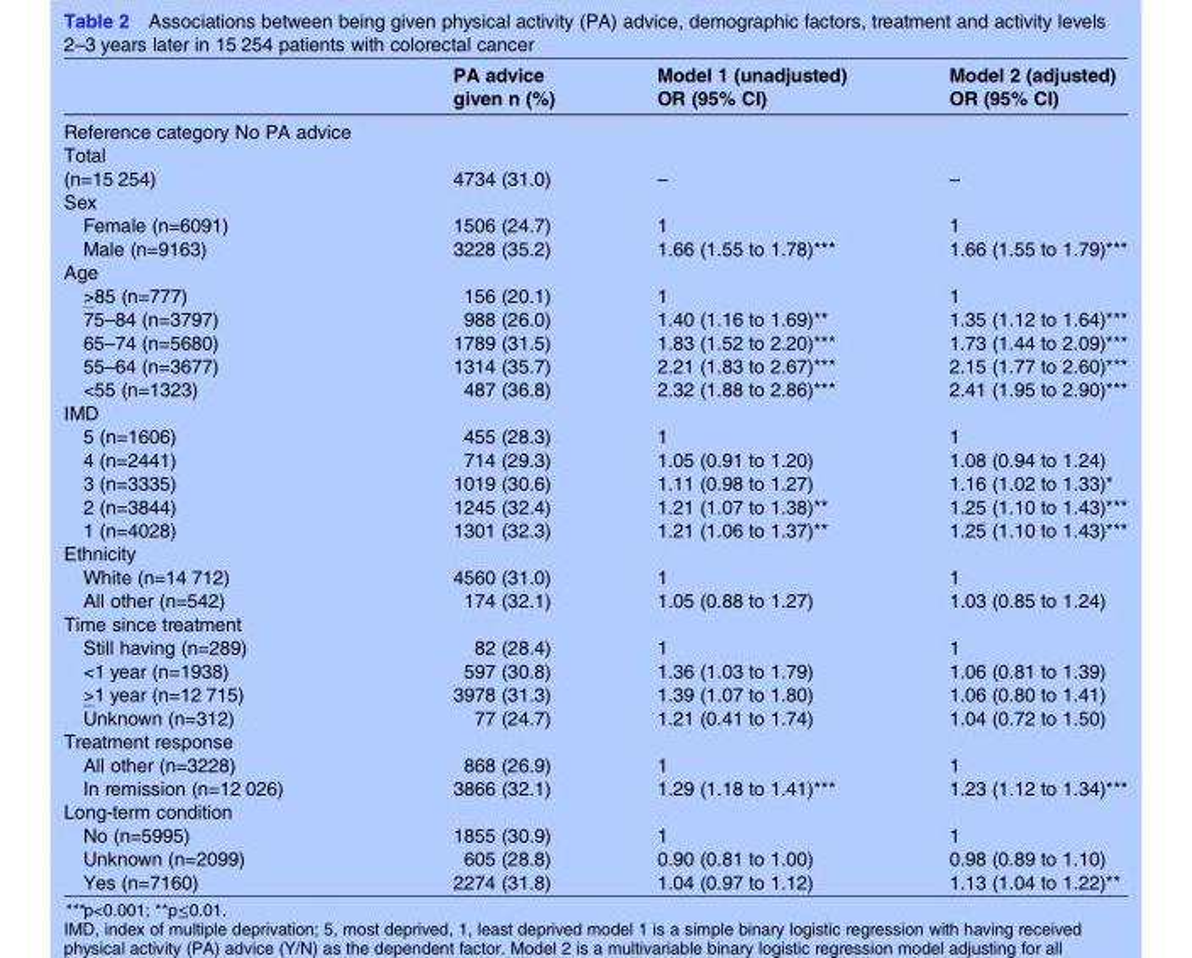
<table><thead><tr><td></td><td>PA advice given n (%)</td><td>Model 1 (unadjusted) OR (95% CI)</td><td>Model 2 (adjusted) OR (95% CI)</td></tr></thead><tbody><tr><td colspan="4">Reference category No PA advice</td></tr><tr><td colspan="4">Total</td></tr><tr><td>(n=15 254)</td><td>4734 (31.0)</td><td>–</td><td>–</td></tr><tr><td colspan="4">Sex</td></tr><tr><td>Female (n=6091)</td><td>1506 (24.7)</td><td>1</td><td>1</td></tr><tr><td>Male (n=9163)</td><td>3228 (35.2)</td><td>1.66 (1.55 to 1.78)***</td><td>1.66 (1.55 to 1.79)***</td></tr><tr><td colspan="4">Age</td></tr><tr><td>&gt;85 (n=777)</td><td>156 (20.1)</td><td>1</td><td>1</td></tr><tr><td>75–84 (n=3797)</td><td>988 (26.0)</td><td>1.40 (1.16 to 1.69)**</td><td>1.35 (1.12 to 1.64)***</td></tr><tr><td>65–74 (n=5680)</td><td>1789 (31.5)</td><td>1.83 (1.52 to 2.20)***</td><td>1.73 (1.44 to 2.09)***</td></tr><tr><td>55–64 (n=3677)</td><td>1314 (35.7)</td><td>2.21 (1.83 to 2.67)***</td><td>2.15 (1.77 to 2.60)***</td></tr><tr><td>&lt;55 (n=1323)</td><td>487 (36.8)</td><td>2.32 (1.88 to 2.86)***</td><td>2.41 (1.95 to 2.90)***</td></tr><tr><td colspan="4">IMD</td></tr><tr><td>5 (n=1606)</td><td>455 (28.3)</td><td>1</td><td>1</td></tr><tr><td>4 (n=2441)</td><td>714 (29.3)</td><td>1.05 (0.91 to 1.20)</td><td>1.08 (0.94 to 1.24)</td></tr><tr><td>3 (n=3335)</td><td>1019 (30.6)</td><td>1.11 (0.98 to 1.27)</td><td>1.16 (1.02 to 1.33)*</td></tr><tr><td>2 (n=3844)</td><td>1245 (32.4)</td><td>1.21 (1.07 to 1.38)**</td><td>1.25 (1.10 to 1.43)***</td></tr><tr><td>1 (n=4028)</td><td>1301 (32.3)</td><td>1.21 (1.06 to 1.37)**</td><td>1.25 (1.10 to 1.43)***</td></tr><tr><td colspan="4">Ethnicity</td></tr><tr><td>White (n=14 712)</td><td>4560 (31.0)</td><td>1</td><td>1</td></tr><tr><td>All other (n=542)</td><td>174 (32.1)</td><td>1.05 (0.88 to 1.27)</td><td>1.03 (0.85 to 1.24)</td></tr><tr><td colspan="4">Time since treatment</td></tr><tr><td>Still having (n=289)</td><td>82 (28.4)</td><td>1</td><td>1</td></tr><tr><td>&lt;1 year (n=1938)</td><td>597 (30.8)</td><td>1.36 (1.03 to 1.79)</td><td>1.06 (0.81 to 1.39)</td></tr><tr><td>&gt;1 year (n=12 715)</td><td>3978 (31.3)</td><td>1.39 (1.07 to 1.80)</td><td>1.06 (0.80 to 1.41)</td></tr><tr><td>Unknown (n=312)</td><td>77 (24.7)</td><td>1.21 (0.41 to 1.74)</td><td>1.04 (0.72 to 1.50)</td></tr><tr><td colspan="4">Treatment response</td></tr><tr><td>All other (n=3228)</td><td>868 (26.9)</td><td>1</td><td>1</td></tr><tr><td>In remission (n=12 026)</td><td>3866 (32.1)</td><td>1.29 (1.18 to 1.41)***</td><td>1.23 (1.12 to 1.34)***</td></tr><tr><td colspan="4">Long-term condition</td></tr><tr><td>No (n=5995)</td><td>1855 (30.9)</td><td>1</td><td>1</td></tr><tr><td>Unknown (n=2099)</td><td>605 (28.8)</td><td>0.90 (0.81 to 1.00)</td><td>0.98 (0.89 to 1.10)</td></tr><tr><td>Yes (n=7160)</td><td>2274 (31.8)</td><td>1.04 (0.97 to 1.12)</td><td>1.13 (1.04 to 1.22)**</td></tr></tbody></table>